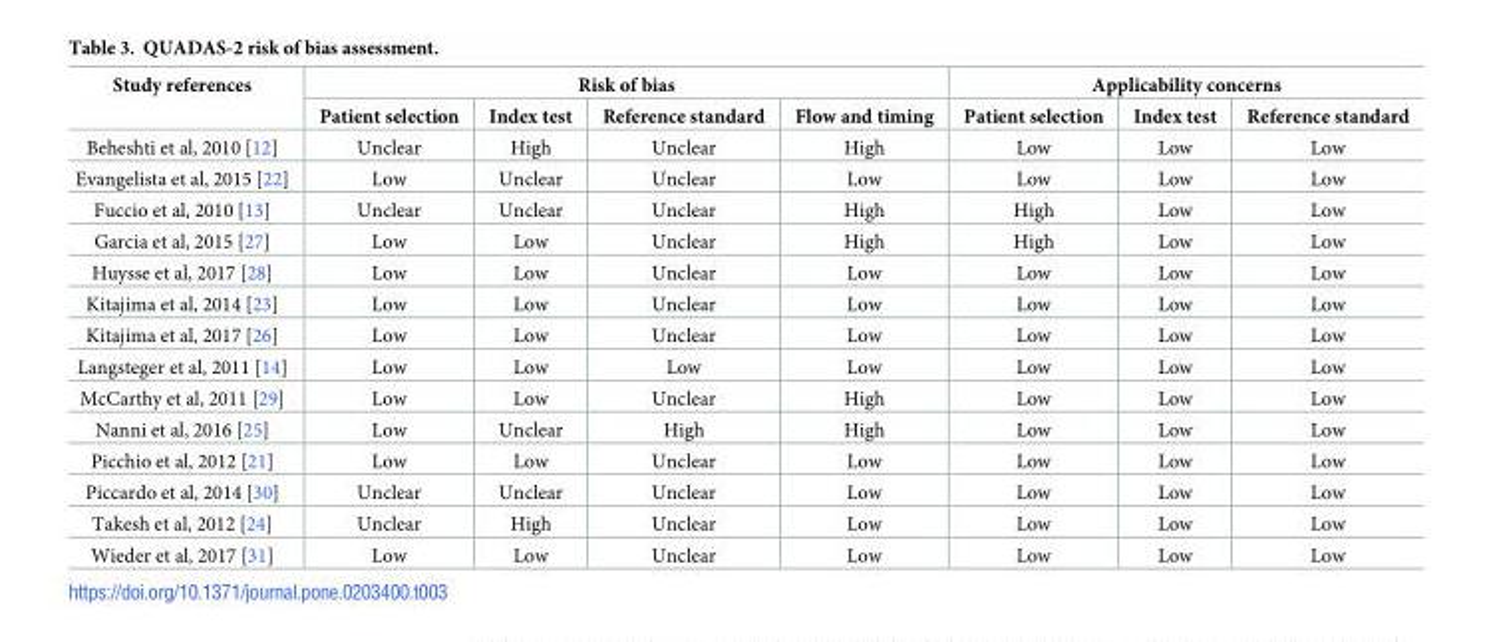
<table><thead><tr><td rowspan="2">Study references</td><td colspan="4">Risk of bias</td><td colspan="3">Applicability concerns</td></tr><tr><td>Patient selection</td><td>Index test</td><td>Reference standard</td><td>Flow and timing</td><td>Patient selection</td><td>Index test</td><td>Reference standard</td></tr></thead><tbody><tr><td>Beheshti et al, 2010 [12]</td><td>Unclear</td><td>High</td><td>Unclear</td><td>High</td><td>Low</td><td>Low</td><td>Low</td></tr><tr><td>Evangelista et al, 2015 [22]</td><td>Low</td><td>Unclear</td><td>Unclear</td><td>Low</td><td>Low</td><td>Low</td><td>Low</td></tr><tr><td>Fuccio et al, 2010 [13]</td><td>Unclear</td><td>Unclear</td><td>Unclear</td><td>High</td><td>High</td><td>Low</td><td>Low</td></tr><tr><td>Garcia et al, 2015 [27]</td><td>Low</td><td>Low</td><td>Unclear</td><td>High</td><td>High</td><td>Low</td><td>Low</td></tr><tr><td>Huysse et al, 2017 [28]</td><td>Low</td><td>Low</td><td>Unclear</td><td>Low</td><td>Low</td><td>Low</td><td>Low</td></tr><tr><td>Kitajima et al, 2014 [23]</td><td>Low</td><td>Low</td><td>Unclear</td><td>Low</td><td>Low</td><td>Low</td><td>Low</td></tr><tr><td>Kitajima et al, 2017 [26]</td><td>Low</td><td>Low</td><td>Unclear</td><td>Low</td><td>Low</td><td>Low</td><td>Low</td></tr><tr><td>Langsteger et al, 2011 [14]</td><td>Low</td><td>Low</td><td>Low</td><td>Low</td><td>Low</td><td>Low</td><td>Low</td></tr><tr><td>McCarthy et al, 2011 [29]</td><td>Low</td><td>Low</td><td>Unclear</td><td>High</td><td>Low</td><td>Low</td><td>Low</td></tr><tr><td>Nanni et al, 2016 [25]</td><td>Low</td><td>Unclear</td><td>High</td><td>High</td><td>Low</td><td>Low</td><td>Low</td></tr><tr><td>Picchio et al, 2012 [21]</td><td>Low</td><td>Low</td><td>Unclear</td><td>Low</td><td>Low</td><td>Low</td><td>Low</td></tr><tr><td>Piccardo et al, 2014 [30]</td><td>Unclear</td><td>Unclear</td><td>Unclear</td><td>Low</td><td>Low</td><td>Low</td><td>Low</td></tr><tr><td>Takesh et al, 2012 [24]</td><td>Unclear</td><td>High</td><td>Unclear</td><td>Low</td><td>Low</td><td>Low</td><td>Low</td></tr><tr><td>Wieder et al, 2017 [31]</td><td>Low</td><td>Low</td><td>Unclear</td><td>Low</td><td>Low</td><td>Low</td><td>Low</td></tr></tbody></table>